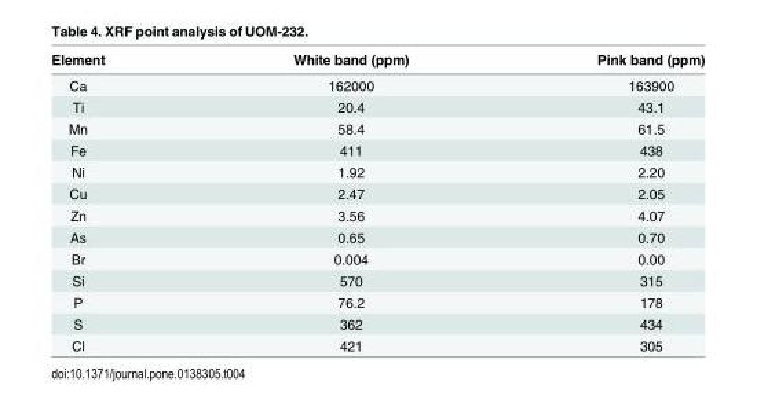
<table><thead><tr><td>Element</td><td>White band (ppm)</td><td>Pink band (ppm)</td></tr></thead><tbody><tr><td>Ca</td><td>162000</td><td>163900</td></tr><tr><td>Ti</td><td>20.4</td><td>43.1</td></tr><tr><td>Mn</td><td>58.4</td><td>61.5</td></tr><tr><td>Fe</td><td>411</td><td>438</td></tr><tr><td>Ni</td><td>1.92</td><td>2.20</td></tr><tr><td>Cu</td><td>2.47</td><td>2.05</td></tr><tr><td>Zn</td><td>3.56</td><td>4.07</td></tr><tr><td>As</td><td>0.65</td><td>0.70</td></tr><tr><td>Br</td><td>0.004</td><td>0.00</td></tr><tr><td>Si</td><td>570</td><td>315</td></tr><tr><td>P</td><td>76.2</td><td>178</td></tr><tr><td>S</td><td>362</td><td>434</td></tr><tr><td>Cl</td><td>421</td><td>305</td></tr></tbody></table>